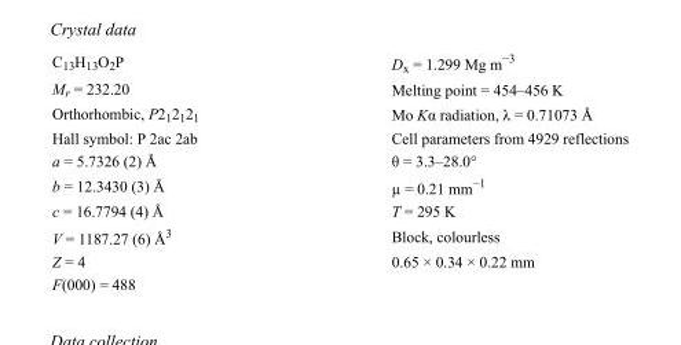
<table><tbody><tr><td>C<sub>13</sub>H<sub>13</sub>O<sub>2</sub>P</td><td>D<sub>x</sub> = 1.299 Mg m<sup>−3</sup></td></tr><tr><td>M<sub>r</sub> = 232.20</td><td>Melting point = 454–456 K</td></tr><tr><td>Orthorhombic, P2<sub>1</sub>2<sub>1</sub>2<sub>1</sub></td><td>Mo Kα radiation, λ = 0.71073 Å</td></tr><tr><td>Hall symbol: P 2ac 2ab</td><td>Cell parameters from 4929 reflections</td></tr><tr><td>a = 5.7326 (2) Å</td><td>θ = 3.3–28.0°</td></tr><tr><td>b = 12.3430 (3) Å</td><td>µ = 0.21 mm<sup>−1</sup></td></tr><tr><td>c = 16.7794 (4) Å</td><td>T = 295 K</td></tr><tr><td>V = 1187.27 (6) Å<sup>3</sup></td><td>Block, colourless</td></tr><tr><td>Z = 4</td><td>0.65 × 0.34 × 0.22 mm</td></tr><tr><td>F(000) = 488</td><td></td></tr></tbody></table>